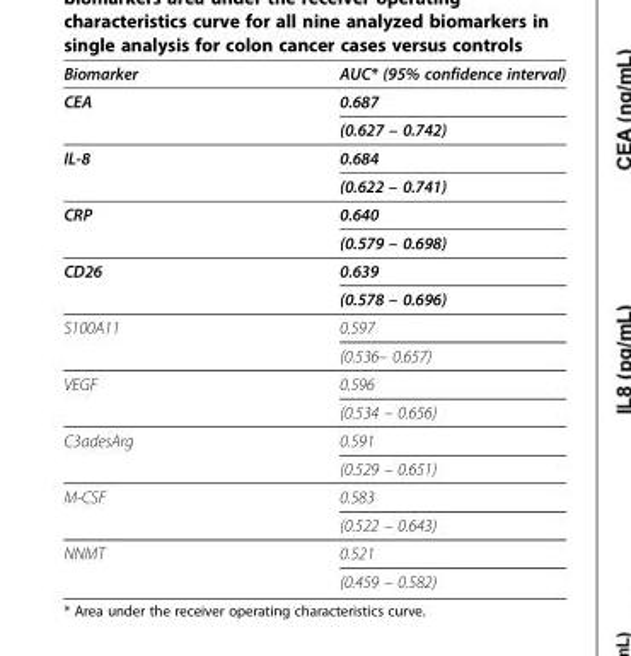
<table><thead><tr><td>Biomarker</td><td>AUC* (95% confidence interval)</td></tr></thead><tbody><tr><td rowspan="2">CEA</td><td>0.687</td></tr><tr><td>(0.627 – 0.742)</td></tr><tr><td rowspan="2">IL-8</td><td>0.684</td></tr><tr><td>(0.622 – 0.741)</td></tr><tr><td rowspan="2">CRP</td><td>0.640</td></tr><tr><td>(0.579 – 0.698)</td></tr><tr><td rowspan="2">CD26</td><td>0.639</td></tr><tr><td>(0.578 – 0.696)</td></tr><tr><td rowspan="2">S100A11</td><td>0.597</td></tr><tr><td>(0.536– 0.657)</td></tr><tr><td rowspan="2">VEGF</td><td>0.596</td></tr><tr><td>(0.534 – 0.656)</td></tr><tr><td rowspan="2">C3adesArg</td><td>0.591</td></tr><tr><td>(0.529 – 0.651)</td></tr><tr><td rowspan="2">M-CSF</td><td>0.583</td></tr><tr><td>(0.522 – 0.643)</td></tr><tr><td rowspan="2">NNMT</td><td>0.521</td></tr><tr><td>(0.459 – 0.582)</td></tr></tbody></table>